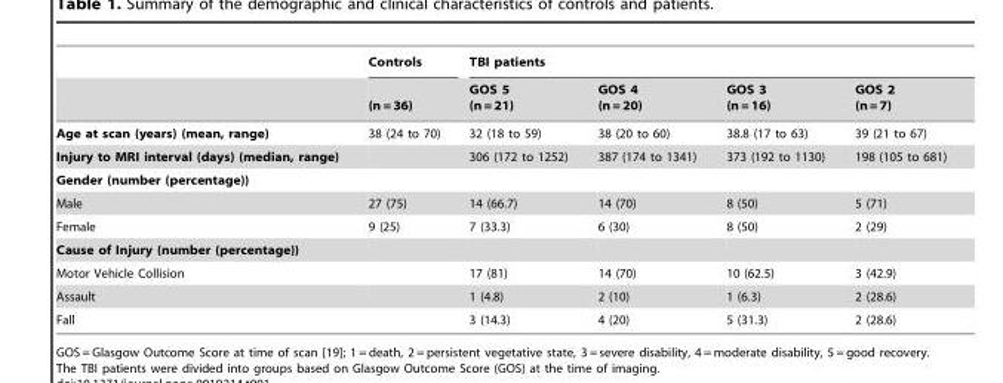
<table><thead><tr><td rowspan="2"></td><td rowspan="2">Controls (n = 36)</td><td colspan="4">TBI patients</td></tr><tr><td>GOS 5 (n = 21)</td><td>GOS 4 (n = 20)</td><td>GOS 3 (n = 16)</td><td>GOS 2 (n = 7)</td></tr></thead><tbody><tr><td>Age at scan (years) (mean, range)</td><td>38 (24 to 70)</td><td>32 (18 to 59)</td><td>38 (20 to 60)</td><td>38.8 (17 to 63)</td><td>39 (21 to 67)</td></tr><tr><td>Injury to MRI interval (days) (median, range)</td><td></td><td>306 (172 to 1252)</td><td>387 (174 to 1341)</td><td>373 (192 to 1130)</td><td>198 (105 to 681)</td></tr><tr><td colspan="6">Gender (number (percentage))</td></tr><tr><td>Male</td><td>27 (75)</td><td>14 (66.7)</td><td>14 (70)</td><td>8 (50)</td><td>5 (71)</td></tr><tr><td>Female</td><td>9 (25)</td><td>7 (33.3)</td><td>6 (30)</td><td>8 (50)</td><td>2 (29)</td></tr><tr><td colspan="6">Cause of Injury (number (percentage))</td></tr><tr><td>Motor Vehicle Collision</td><td></td><td>17 (81)</td><td>14 (70)</td><td>10 (62.5)</td><td>3 (42.9)</td></tr><tr><td>Assault</td><td></td><td>1 (4.8)</td><td>2 (10)</td><td>1 (6.3)</td><td>2 (28.6)</td></tr><tr><td>Fall</td><td></td><td>3 (14.3)</td><td>4 (20)</td><td>5 (31.3)</td><td>2 (28.6)</td></tr></tbody></table>